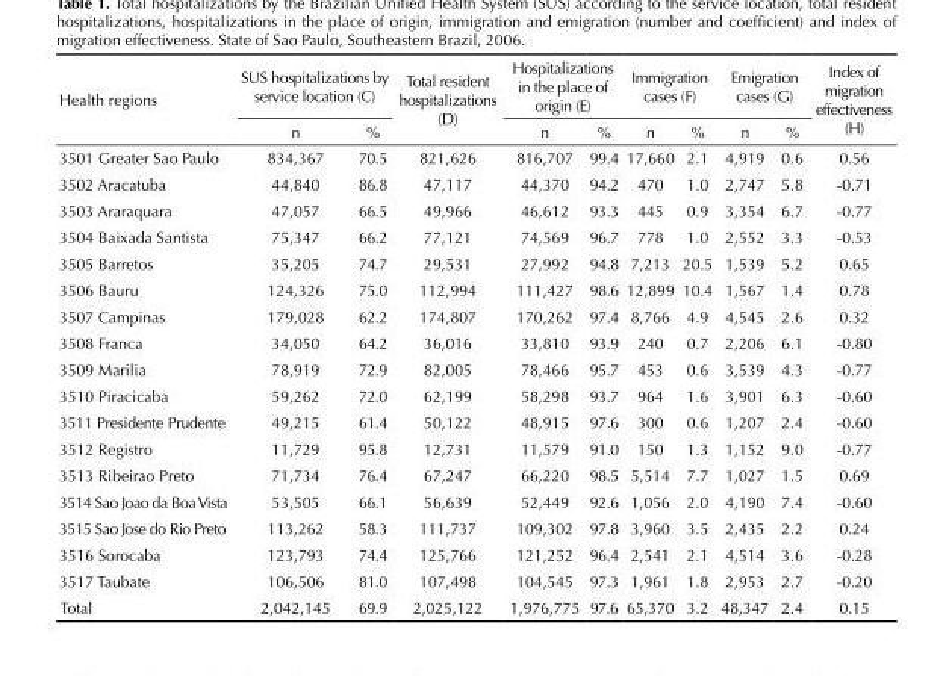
<table><thead><tr><td rowspan="2">Health regions</td><td colspan="2">SUS hospitalizations by service location (C)</td><td rowspan="2">Total resident hospitalizations (D)</td><td colspan="2">Hospitalizations in the place of origin (E)</td><td colspan="2">Immigration cases (F)</td><td colspan="2">Emigration cases (G)</td><td rowspan="2">Index of migration effectiveness (H)</td></tr><tr><td>n</td><td>%</td><td>n</td><td>%</td><td>n</td><td>%</td><td>n</td><td>%</td></tr></thead><tbody><tr><td>3501 Greater Sao Paulo</td><td>834,367</td><td>70.5</td><td>821,626</td><td>816,707</td><td>99.4</td><td>17,660</td><td>2.1</td><td>4,919</td><td>0.6</td><td>0.56</td></tr><tr><td>3502 Aracatuba</td><td>44,840</td><td>86.8</td><td>47,117</td><td>44,370</td><td>94.2</td><td>470</td><td>1.0</td><td>2,747</td><td>5.8</td><td>-0.71</td></tr><tr><td>3503 Araraquara</td><td>47,057</td><td>66.5</td><td>49,966</td><td>46,612</td><td>93.3</td><td>445</td><td>0.9</td><td>3,354</td><td>6.7</td><td>-0.77</td></tr><tr><td>3504 Baixada Santista</td><td>75,347</td><td>66.2</td><td>77,121</td><td>74,569</td><td>96.7</td><td>778</td><td>1.0</td><td>2,552</td><td>3.3</td><td>-0.53</td></tr><tr><td>3505 Barretos</td><td>35,205</td><td>74.7</td><td>29,531</td><td>27,992</td><td>94.8</td><td>7,213</td><td>20.5</td><td>1,539</td><td>5.2</td><td>0.65</td></tr><tr><td>3506 Bauru</td><td>124,326</td><td>75.0</td><td>112,994</td><td>111,427</td><td>98.6</td><td>12,899</td><td>10.4</td><td>1,567</td><td>1.4</td><td>0.78</td></tr><tr><td>3507 Campinas</td><td>179,028</td><td>62.2</td><td>174,807</td><td>170,262</td><td>97.4</td><td>8,766</td><td>4.9</td><td>4,545</td><td>2.6</td><td>0.32</td></tr><tr><td>3508 Franca</td><td>34,050</td><td>64.2</td><td>36,016</td><td>33,810</td><td>93.9</td><td>240</td><td>0.7</td><td>2,206</td><td>6.1</td><td>-0.80</td></tr><tr><td>3509 Marilia</td><td>78,919</td><td>72.9</td><td>82,005</td><td>78,466</td><td>95.7</td><td>453</td><td>0.6</td><td>3,539</td><td>4.3</td><td>-0.77</td></tr><tr><td>3510 Piracicaba</td><td>59,262</td><td>72.0</td><td>62,199</td><td>58,298</td><td>93.7</td><td>964</td><td>1.6</td><td>3,901</td><td>6.3</td><td>-0.60</td></tr><tr><td>3511 Presidente Prudente</td><td>49,215</td><td>61.4</td><td>50,122</td><td>48,915</td><td>97.6</td><td>300</td><td>0.6</td><td>1,207</td><td>2.4</td><td>-0.60</td></tr><tr><td>3512 Registro</td><td>11,729</td><td>95.8</td><td>12,731</td><td>11,579</td><td>91.0</td><td>150</td><td>1.3</td><td>1,152</td><td>9.0</td><td>-0.77</td></tr><tr><td>3513 Ribeirao Preto</td><td>71,734</td><td>76.4</td><td>67,247</td><td>66,220</td><td>98.5</td><td>5,514</td><td>7.7</td><td>1,027</td><td>1.5</td><td>0.69</td></tr><tr><td>3514 Sao Joao da Boa Vista</td><td>53,505</td><td>66.1</td><td>56,639</td><td>52,449</td><td>92.6</td><td>1,056</td><td>2.0</td><td>4,190</td><td>7.4</td><td>-0.60</td></tr><tr><td>3515 Sao Jose do Rio Preto</td><td>113,262</td><td>58.3</td><td>111,737</td><td>109,302</td><td>97.8</td><td>3,960</td><td>3.5</td><td>2,435</td><td>2.2</td><td>0.24</td></tr><tr><td>3516 Sorocaba</td><td>123,793</td><td>74.4</td><td>125,766</td><td>121,252</td><td>96.4</td><td>2,541</td><td>2.1</td><td>4,514</td><td>3.6</td><td>-0.28</td></tr><tr><td>3517 Taubate</td><td>106,506</td><td>81.0</td><td>107,498</td><td>104,545</td><td>97.3</td><td>1,961</td><td>1.8</td><td>2,953</td><td>2.7</td><td>-0.20</td></tr><tr><td>Total</td><td>2,042,145</td><td>69.9</td><td>2,025,122</td><td>1,976,775</td><td>97.6</td><td>65,370</td><td>3.2</td><td>48,347</td><td>2.4</td><td>0.15</td></tr></tbody></table>